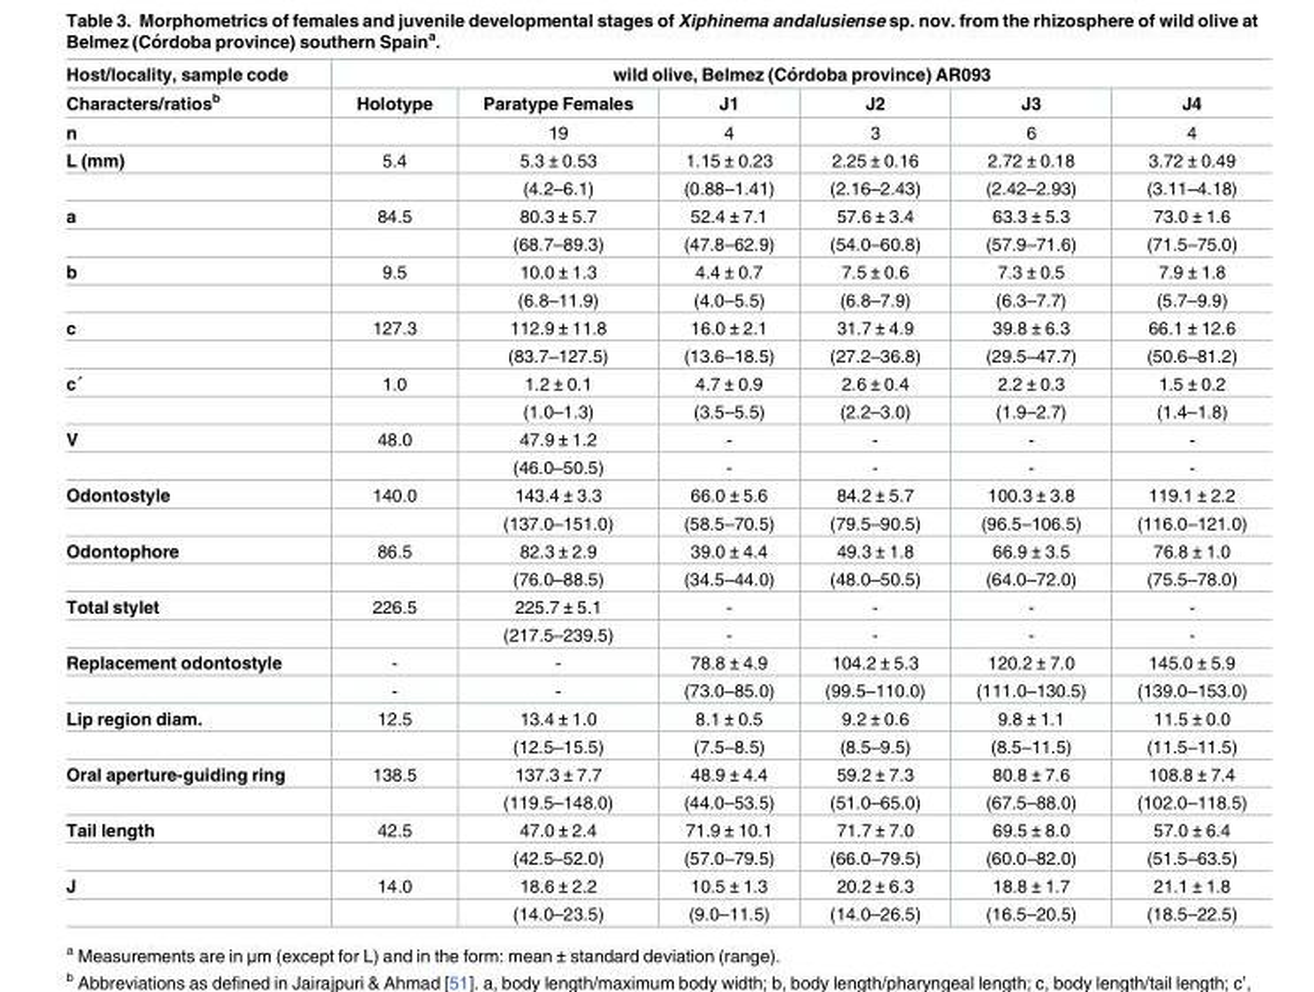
<table><thead><tr><td rowspan="2">Host/locality, sample code Characters/ratios<sup>b</sup></td><td colspan="6">wild olive, Belmez (Co´rdoba province) AR093</td></tr><tr><td>Holotype</td><td>Paratype Females</td><td>J1</td><td>J2</td><td>J3</td><td>J4</td></tr></thead><tbody><tr><td>n</td><td></td><td>19</td><td>4</td><td>3</td><td>6</td><td>4</td></tr><tr><td rowspan="2">L (mm)</td><td>5.4</td><td>5.3 ± 0.53</td><td>1.15 ± 0.23</td><td>2.25 ± 0.16</td><td>2.72 ± 0.18</td><td>3.72 ± 0.49</td></tr><tr><td></td><td>(4.2–6.1)</td><td>(0.88–1.41)</td><td>(2.16–2.43)</td><td>(2.42–2.93)</td><td>(3.11–4.18)</td></tr><tr><td rowspan="2">a</td><td>84.5</td><td>80.3 ± 5.7</td><td>52.4 ± 7.1</td><td>57.6 ± 3.4</td><td>63.3 ± 5.3</td><td>73.0 ± 1.6</td></tr><tr><td></td><td>(68.7–89.3)</td><td>(47.8–62.9)</td><td>(54.0–60.8)</td><td>(57.9–71.6)</td><td>(71.5–75.0)</td></tr><tr><td rowspan="2">b</td><td>9.5</td><td>10.0 ± 1.3</td><td>4.4 ± 0.7</td><td>7.5 ± 0.6</td><td>7.3 ± 0.5</td><td>7.9 ± 1.8</td></tr><tr><td></td><td>(6.8–11.9)</td><td>(4.0–5.5)</td><td>(6.8–7.9)</td><td>(6.3–7.7)</td><td>(5.7–9.9)</td></tr><tr><td rowspan="2">c</td><td>127.3</td><td>112.9 ± 11.8</td><td>16.0 ± 2.1</td><td>31.7 ± 4.9</td><td>39.8 ± 6.3</td><td>66.1 ± 12.6</td></tr><tr><td></td><td>(83.7–127.5)</td><td>(13.6–18.5)</td><td>(27.2–36.8)</td><td>(29.5–47.7)</td><td>(50.6–81.2)</td></tr><tr><td rowspan="2">c´</td><td>1.0</td><td>1.2 ± 0.1</td><td>4.7 ± 0.9</td><td>2.6 ± 0.4</td><td>2.2 ± 0.3</td><td>1.5 ± 0.2</td></tr><tr><td></td><td>(1.0–1.3)</td><td>(3.5–5.5)</td><td>(2.2–3.0)</td><td>(1.9–2.7)</td><td>(1.4–1.8)</td></tr><tr><td rowspan="2">V</td><td>48.0</td><td>47.9 ± 1.2</td><td>-</td><td>-</td><td>-</td><td>-</td></tr><tr><td></td><td>(46.0–50.5)</td><td>-</td><td>-</td><td>-</td><td>-</td></tr><tr><td rowspan="2">Odontostyle</td><td>140.0</td><td>143.4 ± 3.3</td><td>66.0 ± 5.6</td><td>84.2 ± 5.7</td><td>100.3 ± 3.8</td><td>119.1 ± 2.2</td></tr><tr><td></td><td>(137.0–151.0)</td><td>(58.5–70.5)</td><td>(79.5–90.5)</td><td>(96.5–106.5)</td><td>(116.0–121.0)</td></tr><tr><td rowspan="2">Odontophore</td><td>86.5</td><td>82.3 ± 2.9</td><td>39.0 ± 4.4</td><td>49.3 ± 1.8</td><td>66.9 ± 3.5</td><td>76.8 ± 1.0</td></tr><tr><td></td><td>(76.0–88.5)</td><td>(34.5–44.0)</td><td>(48.0–50.5)</td><td>(64.0–72.0)</td><td>(75.5–78.0)</td></tr><tr><td rowspan="2">Total stylet</td><td>226.5</td><td>225.7 ± 5.1</td><td>-</td><td>-</td><td>-</td><td>-</td></tr><tr><td></td><td>(217.5–239.5)</td><td>-</td><td>-</td><td>-</td><td>-</td></tr><tr><td rowspan="2">Replacement odontostyle</td><td>-</td><td>-</td><td>78.8 ± 4.9</td><td>104.2 ± 5.3</td><td>120.2 ± 7.0</td><td>145.0 ± 5.9</td></tr><tr><td>-</td><td>-</td><td>(73.0–85.0)</td><td>(99.5–110.0)</td><td>(111.0–130.5)</td><td>(139.0–153.0)</td></tr><tr><td rowspan="2">Lip region diam.</td><td>12.5</td><td>13.4 ± 1.0</td><td>8.1 ± 0.5</td><td>9.2 ± 0.6</td><td>9.8 ± 1.1</td><td>11.5 ± 0.0</td></tr><tr><td></td><td>(12.5–15.5)</td><td>(7.5–8.5)</td><td>(8.5–9.5)</td><td>(8.5–11.5)</td><td>(11.5–11.5)</td></tr><tr><td rowspan="2">Oral aperture-guiding ring</td><td>138.5</td><td>137.3 ± 7.7</td><td>48.9 ± 4.4</td><td>59.2 ± 7.3</td><td>80.8 ± 7.6</td><td>108.8 ± 7.4</td></tr><tr><td></td><td>(119.5–148.0)</td><td>(44.0–53.5)</td><td>(51.0–65.0)</td><td>(67.5–88.0)</td><td>(102.0–118.5)</td></tr><tr><td rowspan="2">Tail length</td><td>42.5</td><td>47.0 ± 2.4</td><td>71.9 ± 10.1</td><td>71.7 ± 7.0</td><td>69.5 ± 8.0</td><td>57.0 ± 6.4</td></tr><tr><td></td><td>(42.5–52.0)</td><td>(57.0–79.5)</td><td>(66.0–79.5)</td><td>(60.0–82.0)</td><td>(51.5–63.5)</td></tr><tr><td rowspan="2">J</td><td>14.0</td><td>18.6 ± 2.2</td><td>10.5 ± 1.3</td><td>20.2 ± 6.3</td><td>18.8 ± 1.7</td><td>21.1 ± 1.8</td></tr><tr><td></td><td>(14.0–23.5)</td><td>(9.0–11.5)</td><td>(14.0–26.5)</td><td>(16.5–20.5)</td><td>(18.5–22.5)</td></tr></tbody></table>